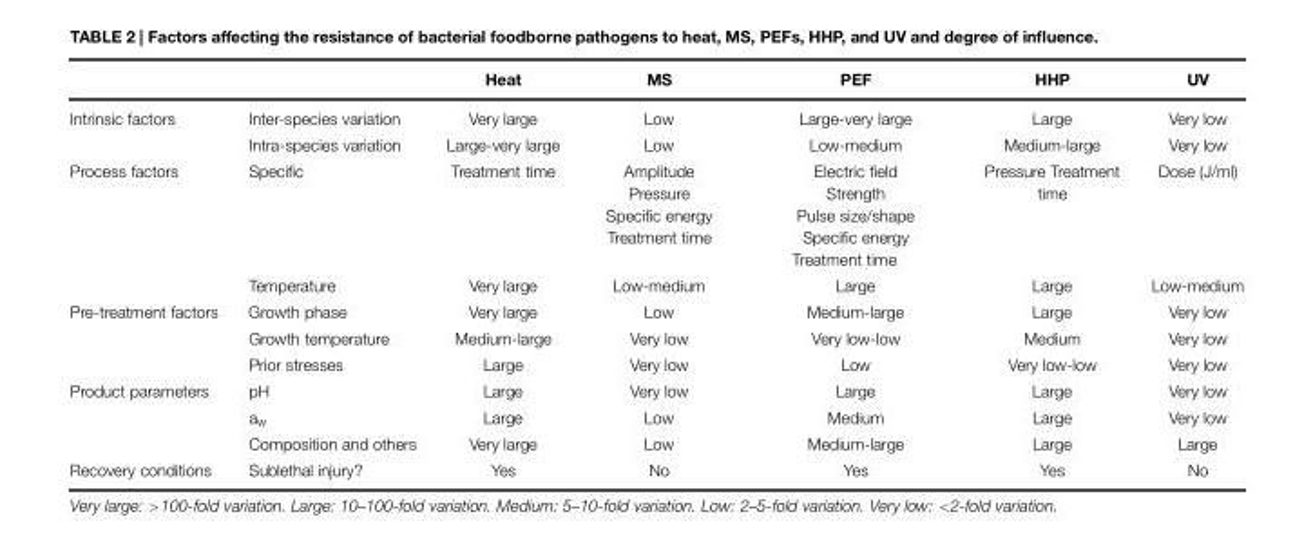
<table><thead><tr><td></td><td></td><td>Heat</td><td>MS</td><td>PEF</td><td>HHP</td><td>UV</td></tr></thead><tbody><tr><td rowspan="2">Intrinsic factors</td><td>Inter-species variation</td><td>Very large</td><td>Low</td><td>Large-very large</td><td>Large</td><td>Very low</td></tr><tr><td>Intra-species variation</td><td>Large-very large</td><td>Low</td><td>Low-medium</td><td>Medium-large</td><td>Very low</td></tr><tr><td rowspan="2">Process factors</td><td>Specific</td><td>Treatment time</td><td>Amplitude Pressure Specific energy Treatment time</td><td>Electric field Strength Pulse size/shape Specific energy Treatment time</td><td>Pressure Treatment time</td><td>Dose (J/ml)</td></tr><tr><td>Temperature</td><td>Very large</td><td>Low-medium</td><td>Large</td><td>Large</td><td>Low-medium</td></tr><tr><td rowspan="3">Pre-treatment factors</td><td>Growth phase</td><td>Very large</td><td>Low</td><td>Medium-large</td><td>Large</td><td>Very low</td></tr><tr><td>Growth temperature</td><td>Medium-large</td><td>Very low</td><td>Very low-low</td><td>Medium</td><td>Very low</td></tr><tr><td>Prior stresses</td><td>Large</td><td>Very low</td><td>Low</td><td>Very low-low</td><td>Very low</td></tr><tr><td rowspan="3">Product parameters</td><td>pH</td><td>Large</td><td>Very low</td><td>Large</td><td>Large</td><td>Very low</td></tr><tr><td>a<sub>w</sub></td><td>Large</td><td>Low</td><td>Medium</td><td>Large</td><td>Very low</td></tr><tr><td>Composition and others</td><td>Very large</td><td>Low</td><td>Medium-large</td><td>Large</td><td>Large</td></tr><tr><td>Recovery conditions</td><td>Sublethal injury?</td><td>Yes</td><td>No</td><td>Yes</td><td>Yes</td><td>No</td></tr></tbody></table>